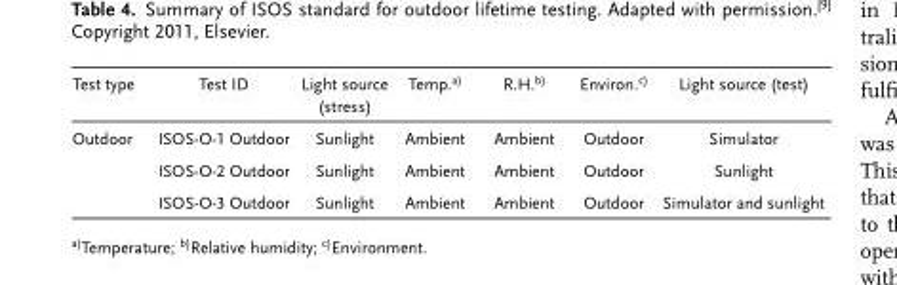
<table><thead><tr><td>Test type</td><td>Test ID</td><td>Light source (stress)</td><td>Temp.a)</td><td>R.H.b)</td><td>Environ.c)</td><td>Light source (test)</td></tr></thead><tbody><tr><td rowspan="3">Outdoor</td><td>ISOS-O-1 Outdoor</td><td>Sunlight</td><td>Ambient</td><td>Ambient</td><td>Outdoor</td><td>Simulator</td></tr><tr><td>ISOS-O-2 Outdoor</td><td>Sunlight</td><td>Ambient</td><td>Ambient</td><td>Outdoor</td><td>Sunlight</td></tr><tr><td>ISOS-O-3 Outdoor</td><td>Sunlight</td><td>Ambient</td><td>Ambient</td><td>Outdoor</td><td>Simulator and sunlight</td></tr></tbody></table>